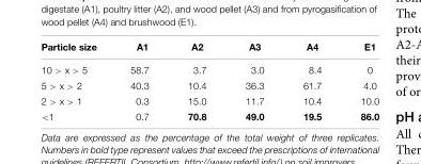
<table><thead><tr><td>Particle size</td><td>A1</td><td>A2</td><td>A3</td><td>A4</td><td>E1</td></tr></thead><tbody><tr><td>10 &gt; x &gt; 5</td><td>58.7</td><td>3.7</td><td>3.0</td><td>8.4</td><td>0</td></tr><tr><td>5 &gt; x &gt; 2</td><td>40.3</td><td>10.4</td><td>36.3</td><td>61.7</td><td>4.0</td></tr><tr><td>2 &gt; x &gt; 1</td><td>0.3</td><td>15.0</td><td>11.7</td><td>10.4</td><td>10.0</td></tr><tr><td>&lt;1</td><td>0.7</td><td>70.8</td><td>49.0</td><td>19.5</td><td>86.0</td></tr></tbody></table>